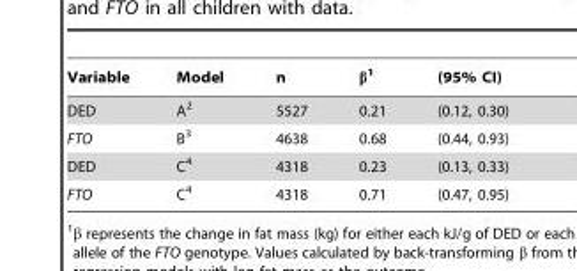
<table><thead><tr><td>Variable</td><td>Model</td><td>n</td><td>β<sup>1</sup></td><td>(95% CI)</td></tr></thead><tbody><tr><td>DED</td><td>A<sup>2</sup></td><td>5527</td><td>0.21</td><td>(0.12, 0.30)</td></tr><tr><td>FTO</td><td>B<sup>3</sup></td><td>4638</td><td>0.68</td><td>(0.44, 0.93)</td></tr><tr><td>DED</td><td>C<sup>4</sup></td><td>4318</td><td>0.23</td><td>(0.13, 0.33)</td></tr><tr><td>FTO</td><td>C<sup>4</sup></td><td>4318</td><td>0.71</td><td>(0.47, 0.95)</td></tr></tbody></table>